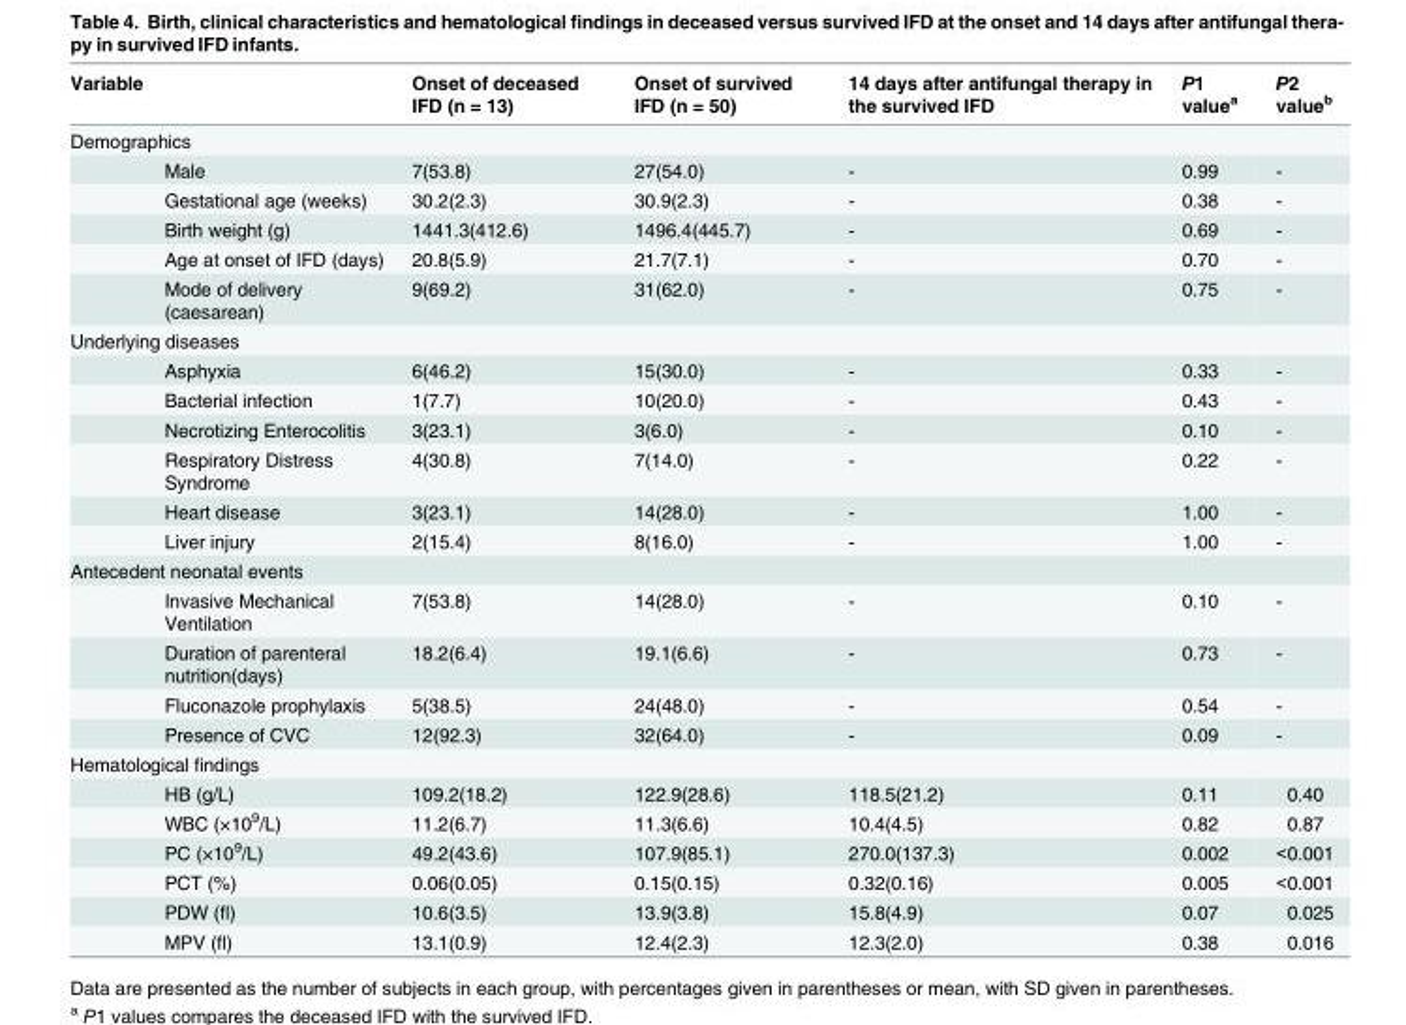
<table><thead><tr><td>Variable</td><td></td><td>Onset of deceased IFD (n = 13)</td><td>Onset of survived IFD (n = 50)</td><td>14 days after antifungal therapy in the survived IFD</td><td>P1 value<sup>a</sup></td><td>P2 value<sup>b</sup></td></tr></thead><tbody><tr><td colspan="7">Demographics</td></tr><tr><td></td><td>Male</td><td>7(53.8)</td><td>27(54.0)</td><td>-</td><td>0.99</td><td>-</td></tr><tr><td></td><td>Gestational age (weeks)</td><td>30.2(2.3)</td><td>30.9(2.3)</td><td>-</td><td>0.38</td><td>-</td></tr><tr><td></td><td>Birth weight (g)</td><td>1441.3(412.6)</td><td>1496.4(445.7)</td><td>-</td><td>0.69</td><td>-</td></tr><tr><td></td><td>Age at onset of IFD (days)</td><td>20.8(5.9)</td><td>21.7(7.1)</td><td>-</td><td>0.70</td><td>-</td></tr><tr><td></td><td>Mode of delivery (caesarean)</td><td>9(69.2)</td><td>31(62.0)</td><td>-</td><td>0.75</td><td>-</td></tr><tr><td colspan="7">Underlying diseases</td></tr><tr><td></td><td>Asphyxia</td><td>6(46.2)</td><td>15(30.0)</td><td>-</td><td>0.33</td><td>-</td></tr><tr><td></td><td>Bacterial infection</td><td>1(7.7)</td><td>10(20.0)</td><td>-</td><td>0.43</td><td>-</td></tr><tr><td></td><td>Necrotizing Enterocolitis</td><td>3(23.1)</td><td>3(6.0)</td><td>-</td><td>0.10</td><td>-</td></tr><tr><td></td><td>Respiratory Distress Syndrome</td><td>4(30.8)</td><td>7(14.0)</td><td>-</td><td>0.22</td><td>-</td></tr><tr><td></td><td>Heart disease</td><td>3(23.1)</td><td>14(28.0)</td><td>-</td><td>1.00</td><td>-</td></tr><tr><td></td><td>Liver injury</td><td>2(15.4)</td><td>8(16.0)</td><td>-</td><td>1.00</td><td>-</td></tr><tr><td colspan="7">Antecedent neonatal events</td></tr><tr><td></td><td>Invasive Mechanical Ventilation</td><td>7(53.8)</td><td>14(28.0)</td><td>-</td><td>0.10</td><td>-</td></tr><tr><td></td><td>Duration of parenteral nutrition(days)</td><td>18.2(6.4)</td><td>19.1(6.6)</td><td>-</td><td>0.73</td><td>-</td></tr><tr><td></td><td>Fluconazole prophylaxis</td><td>5(38.5)</td><td>24(48.0)</td><td>-</td><td>0.54</td><td>-</td></tr><tr><td></td><td>Presence of CVC</td><td>12(92.3)</td><td>32(64.0)</td><td>-</td><td>0.09</td><td>-</td></tr><tr><td colspan="7">Hematological findings</td></tr><tr><td></td><td>HB (g/L)</td><td>109.2(18.2)</td><td>122.9(28.6)</td><td>118.5(21.2)</td><td>0.11</td><td>0.40</td></tr><tr><td></td><td>WBC (×10<sup>9</sup>/L)</td><td>11.2(6.7)</td><td>11.3(6.6)</td><td>10.4(4.5)</td><td>0.82</td><td>0.87</td></tr><tr><td></td><td>PC (×10<sup>9</sup>/L)</td><td>49.2(43.6)</td><td>107.9(85.1)</td><td>270.0(137.3)</td><td>0.002</td><td>&lt;0.001</td></tr><tr><td></td><td>PCT (%)</td><td>0.06(0.05)</td><td>0.15(0.15)</td><td>0.32(0.16)</td><td>0.005</td><td>&lt;0.001</td></tr><tr><td></td><td>PDW (fl)</td><td>10.6(3.5)</td><td>13.9(3.8)</td><td>15.8(4.9)</td><td>0.07</td><td>0.025</td></tr><tr><td></td><td>MPV (fl)</td><td>13.1(0.9)</td><td>12.4(2.3)</td><td>12.3(2.0)</td><td>0.38</td><td>0.016</td></tr></tbody></table>